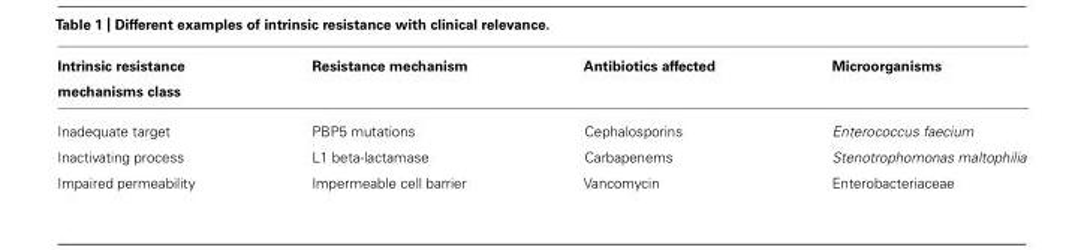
<table><thead><tr><td>Intrinsic resistance mechanisms class</td><td>Resistance mechanism</td><td>Antibiotics affected</td><td>Microorganisms</td></tr></thead><tbody><tr><td>Inadequate target</td><td>PBP5 mutations</td><td>Cephalosporins</td><td>Enterococcus faecium</td></tr><tr><td>Inactivating process</td><td>L1 beta-lactamase</td><td>Carbapenems</td><td>Stenotrophomonas maltophilia</td></tr><tr><td>Impaired permeability</td><td>Impermeable cell barrier</td><td>Vancomycin</td><td>Enterobacteriaceae</td></tr></tbody></table>